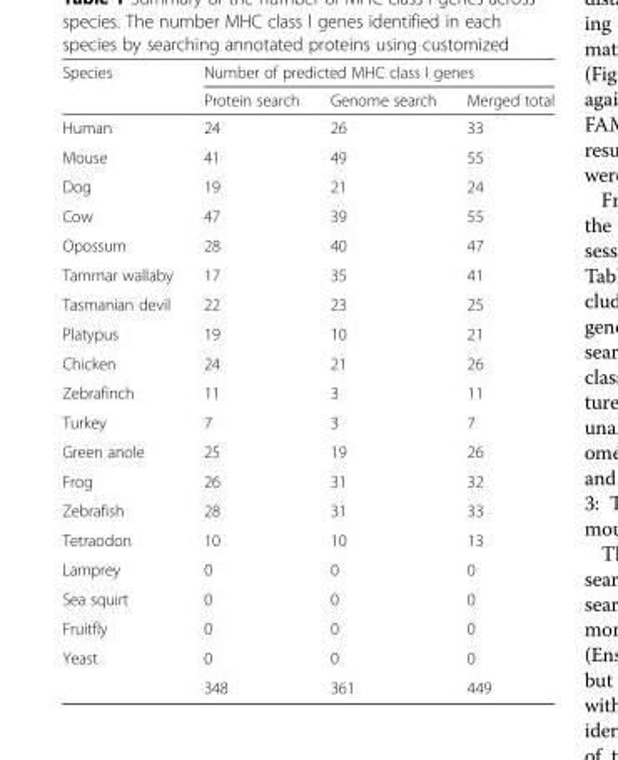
<table><thead><tr><td rowspan="2">Species</td><td colspan="3">Number of predicted MHC class I genes</td></tr><tr><td>Protein search</td><td>Genome search</td><td>Merged total</td></tr></thead><tbody><tr><td>Human</td><td>24</td><td>26</td><td>33</td></tr><tr><td>Mouse</td><td>41</td><td>49</td><td>55</td></tr><tr><td>Dog</td><td>19</td><td>21</td><td>24</td></tr><tr><td>Cow</td><td>47</td><td>39</td><td>55</td></tr><tr><td>Opossum</td><td>28</td><td>40</td><td>47</td></tr><tr><td>Tammar wallaby</td><td>17</td><td>35</td><td>41</td></tr><tr><td>Tasmanian devil</td><td>22</td><td>23</td><td>25</td></tr><tr><td>Platypus</td><td>19</td><td>10</td><td>21</td></tr><tr><td>Chicken</td><td>24</td><td>21</td><td>26</td></tr><tr><td>Zebrafinch</td><td>11</td><td>3</td><td>11</td></tr><tr><td>Turkey</td><td>7</td><td>3</td><td>7</td></tr><tr><td>Green anole</td><td>25</td><td>19</td><td>26</td></tr><tr><td>Frog</td><td>26</td><td>31</td><td>32</td></tr><tr><td>Zebrafish</td><td>28</td><td>31</td><td>33</td></tr><tr><td>Tetraodon</td><td>10</td><td>10</td><td>13</td></tr><tr><td>Lamprey</td><td>0</td><td>0</td><td>0</td></tr><tr><td>Sea squirt</td><td>0</td><td>0</td><td>0</td></tr><tr><td>Fruitfly</td><td>0</td><td>0</td><td>0</td></tr><tr><td rowspan="2">Yeast</td><td>0</td><td>0</td><td>0</td></tr><tr><td>348</td><td>361</td><td>449</td></tr></tbody></table>